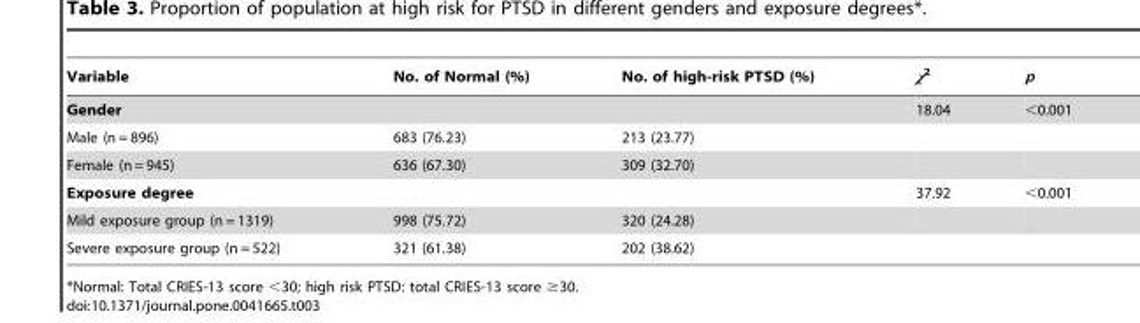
<table><thead><tr><td>Variable</td><td>No. of Normal (%)</td><td>No. of high-risk PTSD (%)</td><td>χ<sup>2</sup></td><td>p</td></tr></thead><tbody><tr><td>Gender</td><td></td><td></td><td>18.04</td><td>&lt;0.001</td></tr><tr><td>Male (n = 896)</td><td>683 (76.23)</td><td>213 (23.77)</td><td></td><td></td></tr><tr><td>Female (n = 945)</td><td>636 (67.30)</td><td>309 (32.70)</td><td></td><td></td></tr><tr><td>Exposure degree</td><td></td><td></td><td>37.92</td><td>&lt;0.001</td></tr><tr><td>Mild exposure group (n = 1319)</td><td>998 (75.72)</td><td>320 (24.28)</td><td></td><td></td></tr><tr><td>Severe exposure group (n = 522)</td><td>321 (61.38)</td><td>202 (38.62)</td><td></td><td></td></tr></tbody></table>